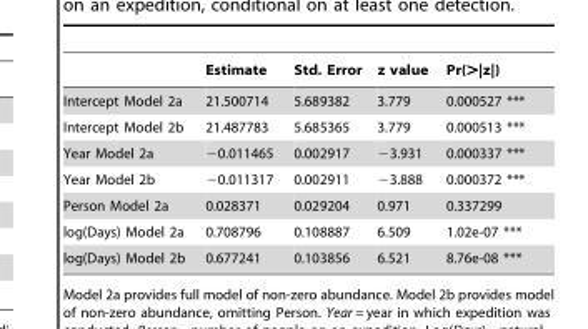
<table><thead><tr><td></td><td>Estimate</td><td>Std. Error</td><td>z value</td><td>Pr(&gt;|z|)</td></tr></thead><tbody><tr><td>Intercept Model 2a</td><td>21.500714</td><td>5.689382</td><td>3.779</td><td>0.000527 ***</td></tr><tr><td>Intercept Model 2b</td><td>21.487783</td><td>5.685365</td><td>3.779</td><td>0.000513 ***</td></tr><tr><td>Year Model 2a</td><td>−0.011465</td><td>0.002917</td><td>−3.931</td><td>0.000337 ***</td></tr><tr><td>Year Model 2b</td><td>−0.011317</td><td>0.002911</td><td>−3.888</td><td>0.000372 ***</td></tr><tr><td>Person Model 2a</td><td>0.028371</td><td>0.029204</td><td>0.971</td><td>0.337299</td></tr><tr><td>log(Days) Model 2a</td><td>0.708796</td><td>0.108887</td><td>6.509</td><td>1.02e-07 ***</td></tr><tr><td>log(Days) Model 2b</td><td>0.677241</td><td>0.103856</td><td>6.521</td><td>8.76e-08 ***</td></tr></tbody></table>